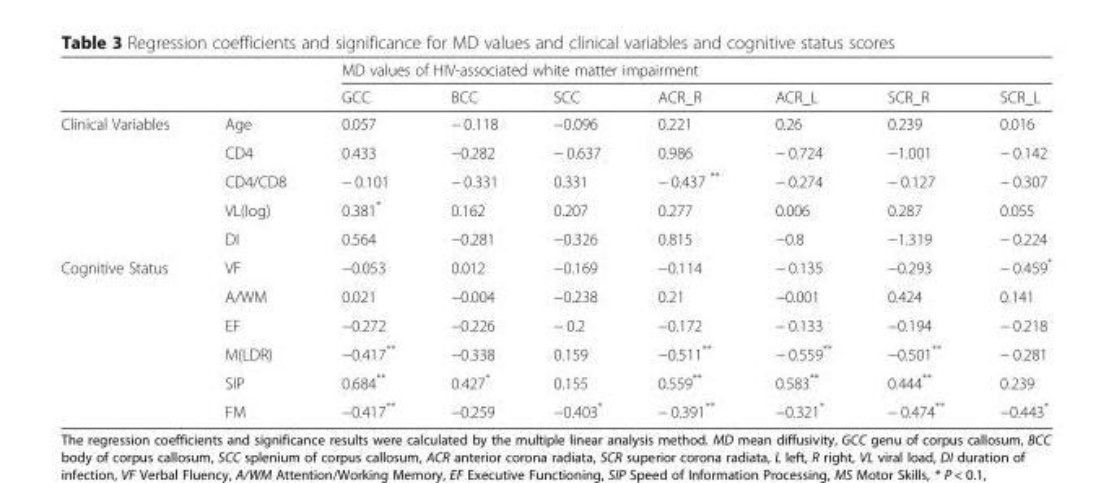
<table><thead><tr><td rowspan="2"></td><td rowspan="2"></td><td colspan="7">MD values of HIV-associated white matter impairment</td></tr><tr><td>GCC</td><td>BCC</td><td>SCC</td><td>ACR_R</td><td>ACR_L</td><td>SCR_R</td><td>SCR_L</td></tr></thead><tbody><tr><td rowspan="5">Clinical Variables</td><td>Age</td><td>0.057</td><td>− 0.118</td><td>−0.096</td><td>0.221</td><td>0.26</td><td>0.239</td><td>0.016</td></tr><tr><td>CD4</td><td>0.433</td><td>−0.282</td><td>− 0.637</td><td>0.986</td><td>− 0.724</td><td>−1.001</td><td>− 0.142</td></tr><tr><td>CD4/CD8</td><td>− 0.101</td><td>− 0.331</td><td>0.331</td><td>− 0.437 **</td><td>− 0.274</td><td>− 0.127</td><td>− 0.307</td></tr><tr><td>VL(log)</td><td>0.381*</td><td>0.162</td><td>0.207</td><td>0.277</td><td>0.006</td><td>0.287</td><td>0.055</td></tr><tr><td>DI</td><td>0.564</td><td>−0.281</td><td>−0.326</td><td>0.815</td><td>−0.8</td><td>−1.319</td><td>− 0.224</td></tr><tr><td rowspan="6">Cognitive Status</td><td>VF</td><td>−0.053</td><td>0.012</td><td>−0.169</td><td>−0.114</td><td>− 0.135</td><td>−0.293</td><td>− 0.459*</td></tr><tr><td>A/WM</td><td>0.021</td><td>−0.004</td><td>−0.238</td><td>0.21</td><td>−0.001</td><td>0.424</td><td>0.141</td></tr><tr><td>EF</td><td>−0.272</td><td>−0.226</td><td>− 0.2</td><td>−0.172</td><td>− 0.133</td><td>−0.194</td><td>− 0.218</td></tr><tr><td>M(LDR)</td><td>−0.417**</td><td>−0.338</td><td>0.159</td><td>−0.511**</td><td>− 0.559**</td><td>−0.501**</td><td>− 0.281</td></tr><tr><td>SIP</td><td>0.684**</td><td>0.427*</td><td>0.155</td><td>0.559**</td><td>0.583**</td><td>0.444**</td><td>0.239</td></tr><tr><td>FM</td><td>−0.417**</td><td>−0.259</td><td>−0.403*</td><td>− 0.391**</td><td>−0.321*</td><td>− 0.474**</td><td>−0.443*</td></tr></tbody></table>